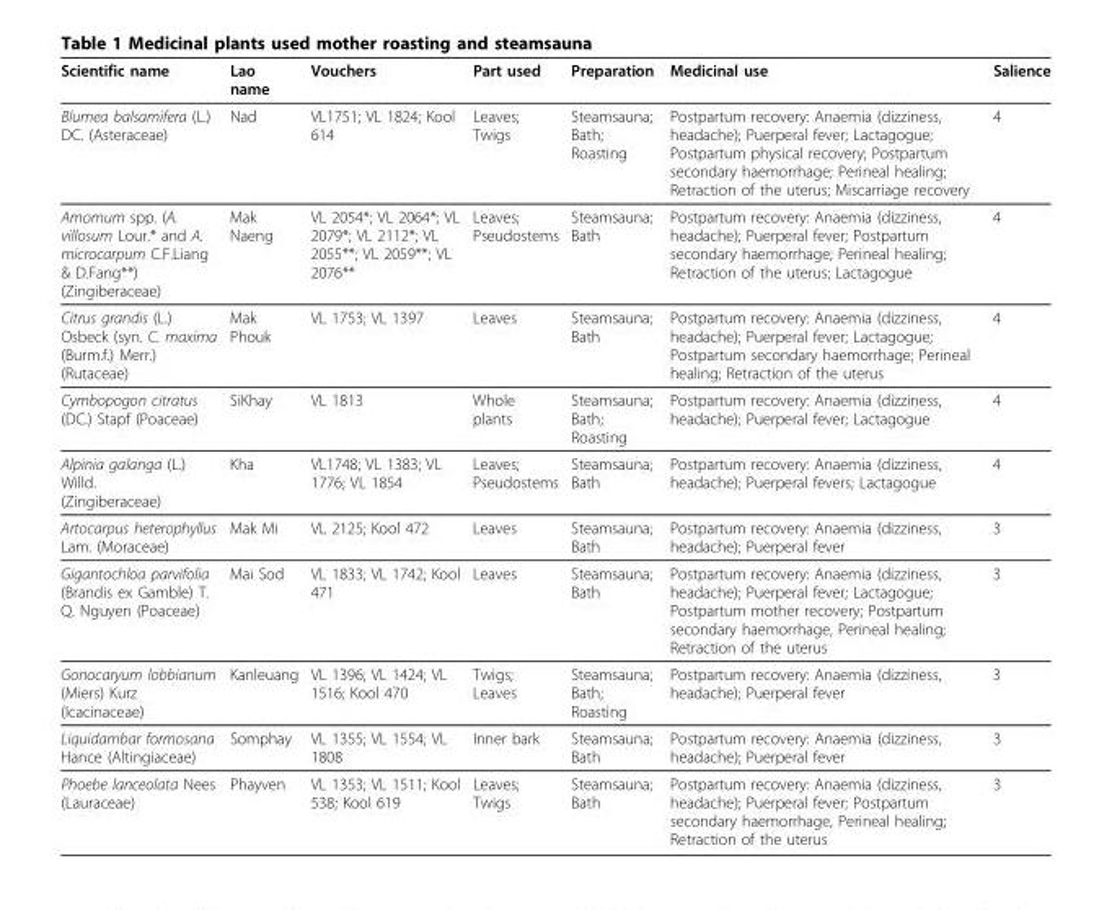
<table><thead><tr><td>Scientific name</td><td>Lao name</td><td>Vouchers</td><td>Part used</td><td>Preparation</td><td>Medicinal use</td><td>Salience</td></tr></thead><tbody><tr><td>Blumea balsamifera (L.) DC. (Asteraceae)</td><td>Nad</td><td>VL1751; VL 1824; Kool 614</td><td>Leaves; Twigs</td><td>Steamsauna; Bath; Roasting</td><td>Postpartum recovery: Anaemia (dizziness, headache); Puerperal fever; Lactagogue; Postpartum physical recovery; Postpartum secondary haemorrhage; Perineal healing; Retraction of the uterus; Miscarriage recovery</td><td>4</td></tr><tr><td>Amomum spp. (A. villosum Lour.* and A. microcarpum C.F.Liang &amp; D.Fang**) (Zingiberaceae)</td><td>Mak Naeng</td><td>VL 2054*; VL 2064*; VL 2079*; VL 2112*; VL 2055**; VL 2059**; VL 2076**</td><td>Leaves; Pseudostems</td><td>Steamsauna; Bath</td><td>Postpartum recovery: Anaemia (dizziness, headache); Puerperal fever; Postpartum secondary haemorrhage; Perineal healing; Retraction of the uterus; Lactagogue</td><td>4</td></tr><tr><td>Citrus grandis (L.) Osbeck (syn. C. maxima (Burm.f.) Merr.) (Rutaceae)</td><td>Mak Phouk</td><td>VL 1753; VL 1397</td><td>Leaves</td><td>Steamsauna; Bath</td><td>Postpartum recovery: Anaemia (dizziness, headache); Puerperal fever; Lactagogue; Postpartum secondary haemorrhage; Perineal healing; Retraction of the uterus</td><td>4</td></tr><tr><td>Cymbopogon citratus (DC.) Stapf (Poaceae)</td><td>SiKhay</td><td>VL 1813</td><td>Whole plants</td><td>Steamsauna; Bath; Roasting</td><td>Postpartum recovery: Anaemia (dizziness, headache); Puerperal fever; Lactagogue</td><td>4</td></tr><tr><td>Alpinia galanga (L.) Willd. (Zingiberaceae)</td><td>Kha</td><td>VL1748; VL 1383; VL 1776; VL 1854</td><td>Leaves; Pseudostems</td><td>Steamsauna; Bath</td><td>Postpartum recovery: Anaemia (dizziness, headache); Puerperal fevers; Lactagogue</td><td>4</td></tr><tr><td>Artocarpus heterophyllus Lam. (Moraceae)</td><td>Mak Mi</td><td>VL 2125; Kool 472</td><td>Leaves</td><td>Steamsauna; Bath</td><td>Postpartum recovery: Anaemia (dizziness, headache); Puerperal fever</td><td>3</td></tr><tr><td>Gigantochloa parvifolia (Brandis ex Gamble) T. Q. Nguyen (Poaceae)</td><td>Mai Sod</td><td>VL 1833; VL 1742; Kool 471</td><td>Leaves</td><td>Steamsauna; Bath</td><td>Postpartum recovery: Anaemia (dizziness, headache); Puerperal fever; Lactagogue; Postpartum mother recovery; Postpartum secondary haemorrhage, Perineal healing; Retraction of the uterus</td><td>3</td></tr><tr><td>Gonocaryum lobbianum (Miers) Kurz (Icacinaceae)</td><td>Kanleuang</td><td>VL 1396; VL 1424; VL 1516; Kool 470</td><td>Twigs; Leaves</td><td>Steamsauna; Bath; Roasting</td><td>Postpartum recovery: Anaemia (dizziness, headache); Puerperal fever</td><td>3</td></tr><tr><td>Liquidambar formosana Hance (Altingiaceae)</td><td>Somphay</td><td>VL 1355; VL 1554; VL 1808</td><td>Inner bark</td><td>Steamsauna; Bath</td><td>Postpartum recovery: Anaemia (dizziness, headache); Puerperal fever</td><td>3</td></tr><tr><td>Phoebe lanceolata Nees (Lauraceae)</td><td>Phayven</td><td>VL 1353; VL 1511; Kool 538; Kool 619</td><td>Leaves; Twigs</td><td>Steamsauna; Bath</td><td>Postpartum recovery: Anaemia (dizziness, headache); Puerperal fever; Postpartum secondary haemorrhage, Perineal healing; Retraction of the uterus</td><td>3</td></tr></tbody></table>